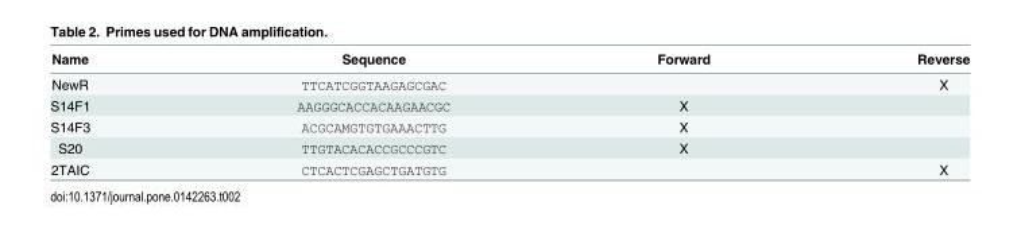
<table><thead><tr><td>Name</td><td>Sequence</td><td>Forward</td><td>Reverse</td></tr></thead><tbody><tr><td>NewR</td><td>TTCATCGGTAAGAGCGAC</td><td></td><td>X</td></tr><tr><td>S14F1</td><td>AAGGGCACCACAAGAACGC</td><td>X</td><td></td></tr><tr><td>S14F3</td><td>ACGCAMGTGTGAAACTTG</td><td>X</td><td></td></tr><tr><td>S20</td><td>TTGTACACACCGCCCGTC</td><td>X</td><td></td></tr><tr><td>2TAIC</td><td>CTCACTCGAGCTGATGTG</td><td></td><td>X</td></tr></tbody></table>